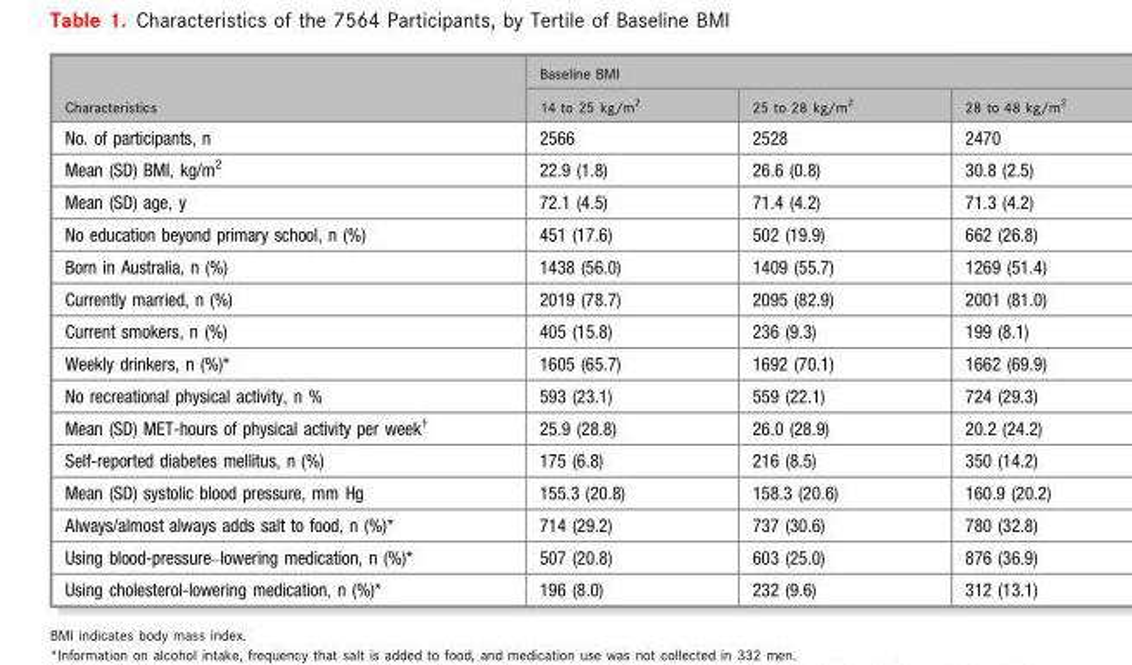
<table><thead><tr><td rowspan="2">Characteristics</td><td colspan="3">Baseline BMI</td></tr><tr><td>14 to 25 kg/m<sup>2</sup></td><td>25 to 28 kg/m<sup>2</sup></td><td>28 to 48 kg/m<sup>2</sup></td></tr></thead><tbody><tr><td>No. of participants, n</td><td>2566</td><td>2528</td><td>2470</td></tr><tr><td>Mean (SD) BMI, kg/m<sup>2</sup></td><td>22.9 (1.8)</td><td>26.6 (0.8)</td><td>30.8 (2.5)</td></tr><tr><td>Mean (SD) age, y</td><td>72.1 (4.5)</td><td>71.4 (4.2)</td><td>71.3 (4.2)</td></tr><tr><td>No education beyond primary school, n (%)</td><td>451 (17.6)</td><td>502 (19.9)</td><td>662 (26.8)</td></tr><tr><td>Born in Australia, n (%)</td><td>1438 (56.0)</td><td>1409 (55.7)</td><td>1269 (51.4)</td></tr><tr><td>Currently married, n (%)</td><td>2019 (78.7)</td><td>2095 (82.9)</td><td>2001 (81.0)</td></tr><tr><td>Current smokers, n (%)</td><td>405 (15.8)</td><td>236 (9.3)</td><td>199 (8.1)</td></tr><tr><td>Weekly drinkers, n (%)*</td><td>1605 (65.7)</td><td>1692 (70.1)</td><td>1662 (69.9)</td></tr><tr><td>No recreational physical activity, n %</td><td>593 (23.1)</td><td>559 (22.1)</td><td>724 (29.3)</td></tr><tr><td>Mean (SD) MET-hours of physical activity per week†</td><td>25.9 (28.8)</td><td>26.0 (28.9)</td><td>20.2 (24.2)</td></tr><tr><td>Self-reported diabetes mellitus, n (%)</td><td>175 (6.8)</td><td>216 (8.5)</td><td>350 (14.2)</td></tr><tr><td>Mean (SD) systolic blood pressure, mm Hg</td><td>155.3 (20.8)</td><td>158.3 (20.6)</td><td>160.9 (20.2)</td></tr><tr><td>Always/almost always adds salt to food, n (%)*</td><td>714 (29.2)</td><td>737 (30.6)</td><td>780 (32.8)</td></tr><tr><td>Using blood-pressure–lowering medication, n (%)*</td><td>507 (20.8)</td><td>603 (25.0)</td><td>876 (36.9)</td></tr><tr><td>Using cholesterol-lowering medication, n (%)*</td><td>196 (8.0)</td><td>232 (9.6)</td><td>312 (13.1)</td></tr></tbody></table>